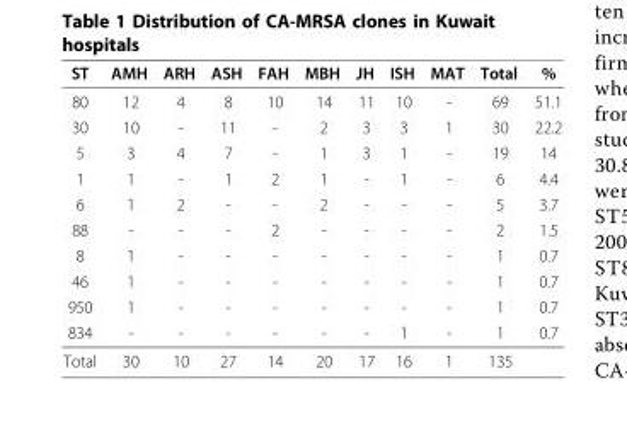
<table><thead><tr><td>ST</td><td>AMH</td><td>ARH</td><td>ASH</td><td>FAH</td><td>MBH</td><td>JH</td><td>ISH</td><td>MAT</td><td>Total</td><td>%</td></tr></thead><tbody><tr><td>80</td><td>12</td><td>4</td><td>8</td><td>10</td><td>14</td><td>11</td><td>10</td><td>-</td><td>69</td><td>51.1</td></tr><tr><td>30</td><td>10</td><td>-</td><td>11</td><td>-</td><td>2</td><td>3</td><td>3</td><td>1</td><td>30</td><td>22.2</td></tr><tr><td>5</td><td>3</td><td>4</td><td>7</td><td>-</td><td>1</td><td>3</td><td>1</td><td>-</td><td>19</td><td>14</td></tr><tr><td>1</td><td>1</td><td>-</td><td>1</td><td>2</td><td>1</td><td>-</td><td>1</td><td>-</td><td>6</td><td>4.4</td></tr><tr><td>6</td><td>1</td><td>2</td><td>-</td><td>-</td><td>2</td><td>-</td><td>-</td><td>-</td><td>5</td><td>3.7</td></tr><tr><td>88</td><td>-</td><td>-</td><td>-</td><td>2</td><td>-</td><td>-</td><td>-</td><td>-</td><td>2</td><td>1.5</td></tr><tr><td>8</td><td>1</td><td>-</td><td>-</td><td>-</td><td>-</td><td>-</td><td>-</td><td>-</td><td>1</td><td>0.7</td></tr><tr><td>46</td><td>1</td><td>-</td><td>-</td><td>-</td><td>-</td><td>-</td><td>-</td><td>-</td><td>1</td><td>0.7</td></tr><tr><td>950</td><td>1</td><td>-</td><td>-</td><td>-</td><td>-</td><td>-</td><td>-</td><td>-</td><td>1</td><td>0.7</td></tr><tr><td>834</td><td>-</td><td>-</td><td>-</td><td>-</td><td>-</td><td>-</td><td>1</td><td>-</td><td>1</td><td>0.7</td></tr><tr><td>Total</td><td>30</td><td>10</td><td>27</td><td>14</td><td>20</td><td>17</td><td>16</td><td>1</td><td>135</td><td></td></tr></tbody></table>